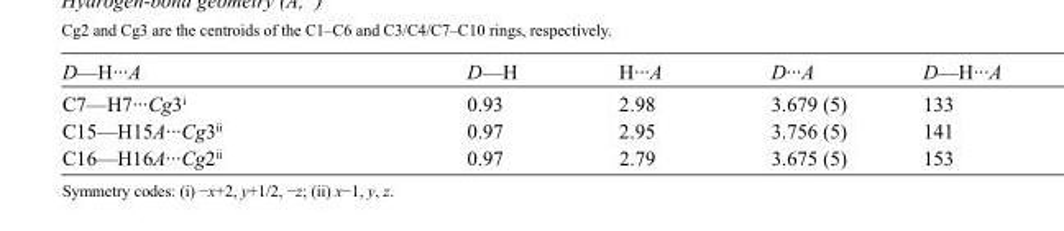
<table><tbody><tr><td>D—H···A</td><td>D—H</td><td>H···A</td><td>D···A</td><td>D—H···A</td></tr><tr><td>C7—H7···Cg3<sup>i</sup></td><td>0.93</td><td>2.98</td><td>3.679 (5)</td><td>133</td></tr><tr><td>C15—H15A···Cg3<sup>ii</sup></td><td>0.97</td><td>2.95</td><td>3.756 (5)</td><td>141</td></tr><tr><td>C16—H16A···Cg2<sup>ii</sup></td><td>0.97</td><td>2.79</td><td>3.675 (5)</td><td>153</td></tr></tbody></table>